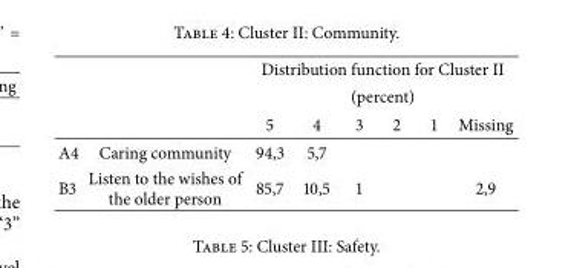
<table><thead><tr><td rowspan="3"></td><td rowspan="3"></td><td rowspan="2" colspan="6">Distribution function for Cluster II (percent)</td></tr><tr></tr><tr><td>5</td><td>4</td><td>3</td><td>2</td><td>1</td><td>Missing</td></tr></thead><tbody><tr><td>A4</td><td>Caring community</td><td>94,3</td><td>5,7</td><td></td><td></td><td></td><td></td></tr><tr><td>B3</td><td>Listen to the wishes of the older person</td><td>85,7</td><td>10,5</td><td>1</td><td></td><td></td><td>2,9</td></tr></tbody></table>